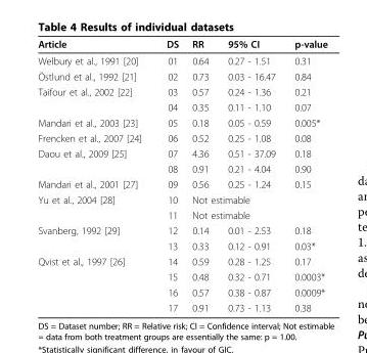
<table><thead><tr><td>Article</td><td>DS</td><td>RR</td><td>95% CI</td><td>p-value</td></tr></thead><tbody><tr><td>Welbury et al., 1991 [20]</td><td>01</td><td>0.64</td><td>0.27 - 1.51</td><td>0.31</td></tr><tr><td>Östlund et al., 1992 [21]</td><td>02</td><td>0.73</td><td>0.03 - 16.47</td><td>0.84</td></tr><tr><td rowspan="2">Taifour et al., 2002 [22]</td><td>03</td><td>0.57</td><td>0.24 - 1.36</td><td>0.21</td></tr><tr><td>04</td><td>0.35</td><td>0.11 - 1.10</td><td>0.07</td></tr><tr><td>Mandari et al., 2003 [23]</td><td>05</td><td>0.18</td><td>0.05 - 0.59</td><td>0.005*</td></tr><tr><td>Frencken et al., 2007 [24]</td><td>06</td><td>0.52</td><td>0.25 - 1.08</td><td>0.08</td></tr><tr><td rowspan="2">Daou et al., 2009 [25]</td><td>07</td><td>4.36</td><td>0.51 - 37.09</td><td>0.18</td></tr><tr><td>08</td><td>0.91</td><td>0.21 - 4.04</td><td>0.90</td></tr><tr><td>Mandari et al., 2001 [27]</td><td>09</td><td>0.56</td><td>0.25 - 1.24</td><td>0.15</td></tr><tr><td rowspan="2">Yu et al., 2004 [28]</td><td>10</td><td colspan="3">Not estimable</td></tr><tr><td>11</td><td colspan="3">Not estimable</td></tr><tr><td rowspan="2">Svanberg, 1992 [29]</td><td>12</td><td>0.14</td><td>0.01 - 2.53</td><td>0.18</td></tr><tr><td>13</td><td>0.33</td><td>0.12 - 0.91</td><td>0.03*</td></tr><tr><td rowspan="4">Qvist et al., 1997 [26]</td><td>14</td><td>0.59</td><td>0.28 - 1.25</td><td>0.17</td></tr><tr><td>15</td><td>0.48</td><td>0.32 - 0.71</td><td>0.0003*</td></tr><tr><td>16</td><td>0.57</td><td>0.38 - 0.87</td><td>0.0009*</td></tr><tr><td>17</td><td>0.91</td><td>0.73 - 1.13</td><td>0.38</td></tr></tbody></table>